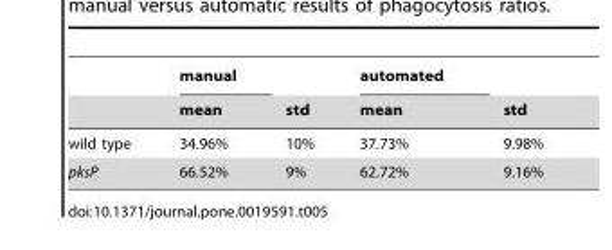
<table><thead><tr><td rowspan="2"></td><td rowspan="2">manual mean</td><td rowspan="2">std</td><td rowspan="2">automated mean</td><td rowspan="2">std</td></tr><tr></tr></thead><tbody><tr><td>wild type</td><td>34.96%</td><td>10%</td><td>37.73%</td><td>9.98%</td></tr><tr><td>pksP</td><td>66.52%</td><td>9%</td><td>62.72%</td><td>9.16%</td></tr></tbody></table>